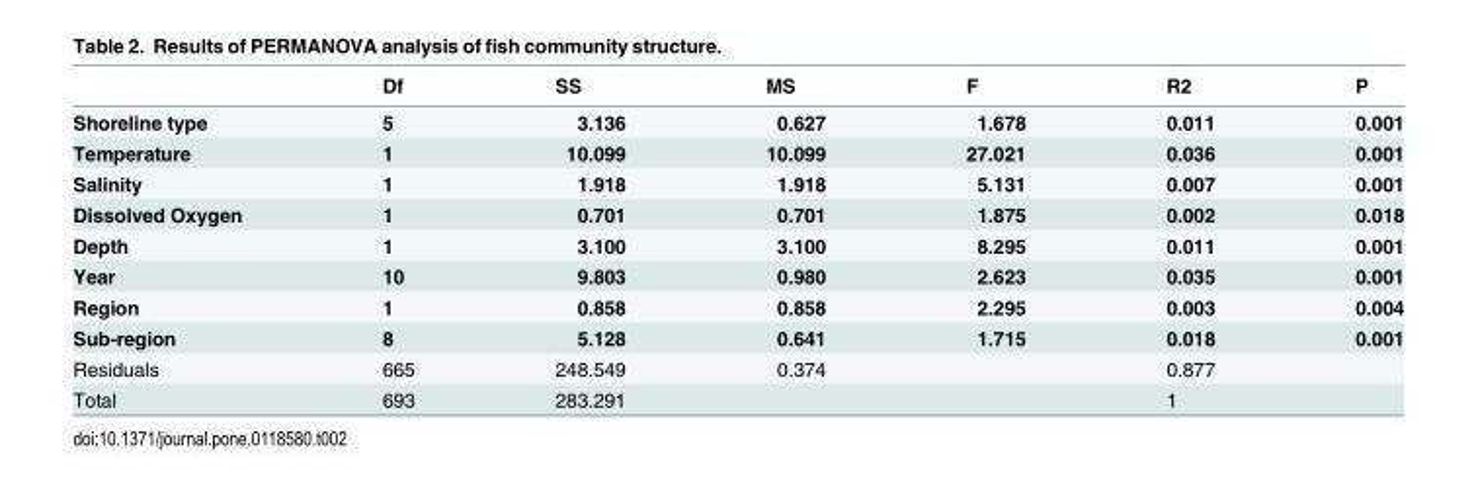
<table><thead><tr><td></td><td>Df</td><td>SS</td><td>MS</td><td>F</td><td>R2</td><td>P</td></tr></thead><tbody><tr><td>Shoreline type</td><td>5</td><td>3.136</td><td>0.627</td><td>1.678</td><td>0.011</td><td>0.001</td></tr><tr><td>Temperature</td><td>1</td><td>10.099</td><td>10.099</td><td>27.021</td><td>0.036</td><td>0.001</td></tr><tr><td>Salinity</td><td>1</td><td>1.918</td><td>1.918</td><td>5.131</td><td>0.007</td><td>0.001</td></tr><tr><td>Dissolved Oxygen</td><td>1</td><td>0.701</td><td>0.701</td><td>1.875</td><td>0.002</td><td>0.018</td></tr><tr><td>Depth</td><td>1</td><td>3.100</td><td>3.100</td><td>8.295</td><td>0.011</td><td>0.001</td></tr><tr><td>Year</td><td>10</td><td>9.803</td><td>0.980</td><td>2.623</td><td>0.035</td><td>0.001</td></tr><tr><td>Region</td><td>1</td><td>0.858</td><td>0.858</td><td>2.295</td><td>0.003</td><td>0.004</td></tr><tr><td>Sub-region</td><td>8</td><td>5.128</td><td>0.641</td><td>1.715</td><td>0.018</td><td>0.001</td></tr><tr><td>Residuals</td><td>665</td><td>248.549</td><td>0.374</td><td></td><td>0.877</td><td></td></tr><tr><td>Total</td><td>693</td><td>283.291</td><td></td><td></td><td>1</td><td></td></tr></tbody></table>